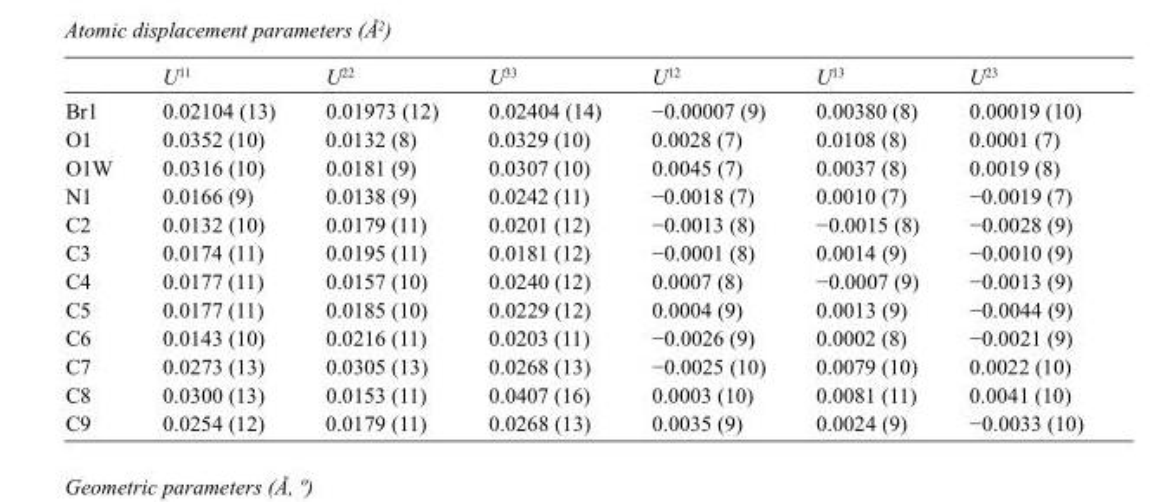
<table><thead><tr><td></td><td>U<sup>11</sup></td><td>U<sup>22</sup></td><td>U<sup>33</sup></td><td>U<sup>12</sup></td><td>U<sup>13</sup></td><td>U<sup>23</sup></td></tr></thead><tbody><tr><td>Br1</td><td>0.02104 (13)</td><td>0.01973 (12)</td><td>0.02404 (14)</td><td>−0.00007 (9)</td><td>0.00380 (8)</td><td>0.00019 (10)</td></tr><tr><td>O1</td><td>0.0352 (10)</td><td>0.0132 (8)</td><td>0.0329 (10)</td><td>0.0028 (7)</td><td>0.0108 (8)</td><td>0.0001 (7)</td></tr><tr><td>O1W</td><td>0.0316 (10)</td><td>0.0181 (9)</td><td>0.0307 (10)</td><td>0.0045 (7)</td><td>0.0037 (8)</td><td>0.0019 (8)</td></tr><tr><td>N1</td><td>0.0166 (9)</td><td>0.0138 (9)</td><td>0.0242 (11)</td><td>−0.0018 (7)</td><td>0.0010 (7)</td><td>−0.0019 (7)</td></tr><tr><td>C2</td><td>0.0132 (10)</td><td>0.0179 (11)</td><td>0.0201 (12)</td><td>−0.0013 (8)</td><td>−0.0015 (8)</td><td>−0.0028 (9)</td></tr><tr><td>C3</td><td>0.0174 (11)</td><td>0.0195 (11)</td><td>0.0181 (12)</td><td>−0.0001 (8)</td><td>0.0014 (9)</td><td>−0.0010 (9)</td></tr><tr><td>C4</td><td>0.0177 (11)</td><td>0.0157 (10)</td><td>0.0240 (12)</td><td>0.0007 (8)</td><td>−0.0007 (9)</td><td>−0.0013 (9)</td></tr><tr><td>C5</td><td>0.0177 (11)</td><td>0.0185 (10)</td><td>0.0229 (12)</td><td>0.0004 (9)</td><td>0.0013 (9)</td><td>−0.0044 (9)</td></tr><tr><td>C6</td><td>0.0143 (10)</td><td>0.0216 (11)</td><td>0.0203 (11)</td><td>−0.0026 (9)</td><td>0.0002 (8)</td><td>−0.0021 (9)</td></tr><tr><td>C7</td><td>0.0273 (13)</td><td>0.0305 (13)</td><td>0.0268 (13)</td><td>−0.0025 (10)</td><td>0.0079 (10)</td><td>0.0022 (10)</td></tr><tr><td>C8</td><td>0.0300 (13)</td><td>0.0153 (11)</td><td>0.0407 (16)</td><td>0.0003 (10)</td><td>0.0081 (11)</td><td>0.0041 (10)</td></tr><tr><td>C9</td><td>0.0254 (12)</td><td>0.0179 (11)</td><td>0.0268 (13)</td><td>0.0035 (9)</td><td>0.0024 (9)</td><td>−0.0033 (10)</td></tr></tbody></table>